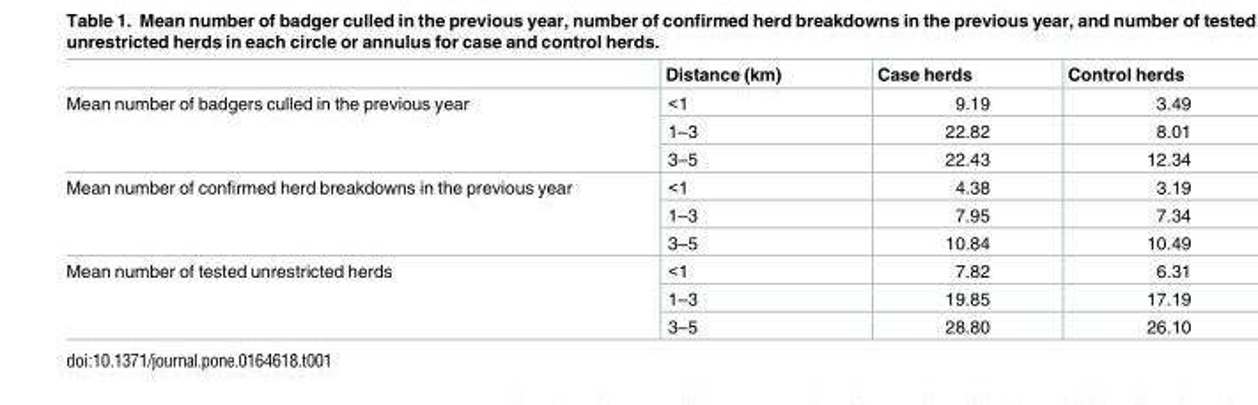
<table><thead><tr><td></td><td>Distance (km)</td><td>Case herds</td><td>Control herds</td></tr></thead><tbody><tr><td rowspan="3">Mean number of badgers culled in the previous year</td><td>&lt;1</td><td>9.19</td><td>3.49</td></tr><tr><td>1–3</td><td>22.82</td><td>8.01</td></tr><tr><td>3–5</td><td>22.43</td><td>12.34</td></tr><tr><td rowspan="3">Mean number of confirmed herd breakdowns in the previous year</td><td>&lt;1</td><td>4.38</td><td>3.19</td></tr><tr><td>1–3</td><td>7.95</td><td>7.34</td></tr><tr><td>3–5</td><td>10.84</td><td>10.49</td></tr><tr><td rowspan="3">Mean number of tested unrestricted herds</td><td>&lt;1</td><td>7.82</td><td>6.31</td></tr><tr><td>1–3</td><td>19.85</td><td>17.19</td></tr><tr><td>3–5</td><td>28.80</td><td>26.10</td></tr></tbody></table>